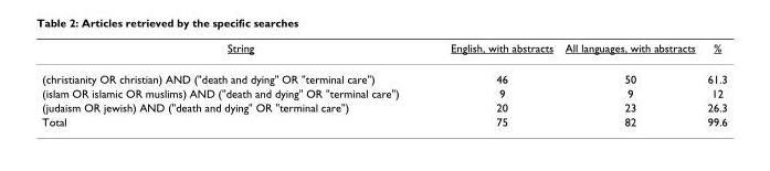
<table><thead><tr><td>String</td><td>English, with abstracts</td><td>All languages, with abstracts</td><td>%</td></tr></thead><tbody><tr><td>(christianity OR christian) AND (&quot;death and dying&quot; OR &quot;terminal care&quot;)</td><td>46</td><td>50</td><td>61.3</td></tr><tr><td>(islam OR islamic OR muslims) AND (&quot;death and dying&quot; OR &quot;terminal care&quot;)</td><td>9</td><td>9</td><td>12</td></tr><tr><td>(judaism OR jewish) AND (&quot;death and dying&quot; OR &quot;terminal care&quot;)</td><td>20</td><td>23</td><td>26.3</td></tr><tr><td>Total</td><td>75</td><td>82</td><td>99.6</td></tr></tbody></table>